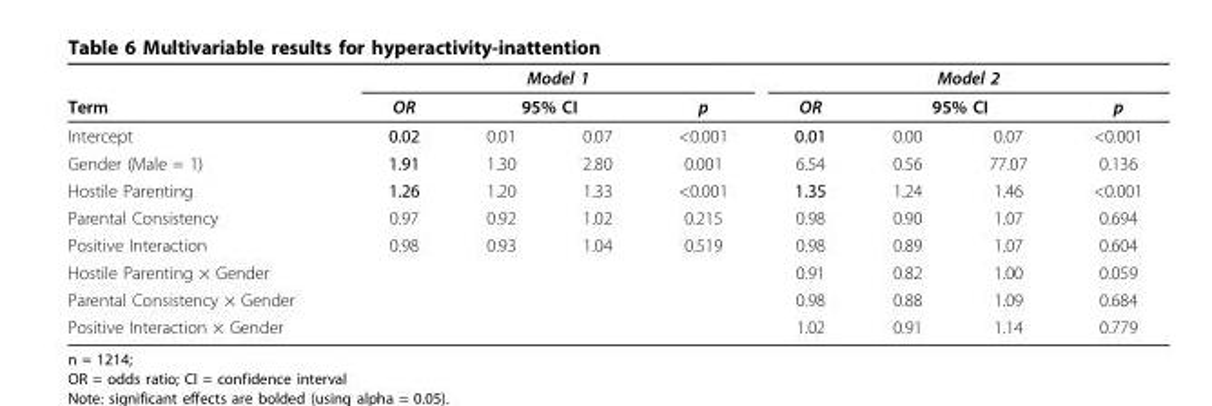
<table><thead><tr><td rowspan="3">Term Intercept</td><td colspan="4">Model 1</td><td colspan="4">Model 2</td></tr><tr><td rowspan="2">OR 0.02</td><td colspan="2">95% CI</td><td rowspan="2">p &lt;0.001</td><td rowspan="2">OR 0.01</td><td colspan="2">95% CI</td><td rowspan="2">p &lt;0.001</td></tr><tr><td>0.01</td><td>0.07</td><td>0.00</td><td>0.07</td></tr></thead><tbody><tr><td>Gender (Male = 1)</td><td>1.91</td><td>1.30</td><td>2.80</td><td>0.001</td><td>6.54</td><td>0.56</td><td>77.07</td><td>0.136</td></tr><tr><td>Hostile Parenting</td><td>1.26</td><td>1.20</td><td>1.33</td><td>&lt;0.001</td><td>1.35</td><td>1.24</td><td>1.46</td><td>&lt;0.001</td></tr><tr><td>Parental Consistency</td><td>0.97</td><td>0.92</td><td>1.02</td><td>0.215</td><td>0.98</td><td>0.90</td><td>1.07</td><td>0.694</td></tr><tr><td>Positive Interaction</td><td>0.98</td><td>0.93</td><td>1.04</td><td>0.519</td><td>0.98</td><td>0.89</td><td>1.07</td><td>0.604</td></tr><tr><td>Hostile Parenting × Gender</td><td></td><td></td><td></td><td></td><td>0.91</td><td>0.82</td><td>1.00</td><td>0.059</td></tr><tr><td>Parental Consistency × Gender</td><td></td><td></td><td></td><td></td><td>0.98</td><td>0.88</td><td>1.09</td><td>0.684</td></tr><tr><td>Positive Interaction × Gender</td><td></td><td></td><td></td><td></td><td>1.02</td><td>0.91</td><td>1.14</td><td>0.779</td></tr></tbody></table>